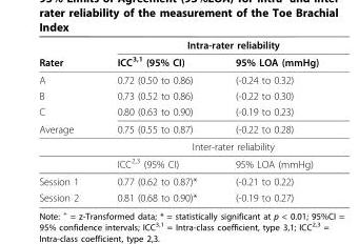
<table><thead><tr><td rowspan="2">Rater</td><td colspan="2">Intra-rater reliability</td></tr><tr><td>ICC<sup>3,1</sup> (95% CI)</td><td>95% LOA (mmHg)</td></tr></thead><tbody><tr><td>A</td><td>0.72 (0.50 to 0.86)</td><td>(-0.24 to 0.32)</td></tr><tr><td>B</td><td>0.73 (0.52 to 0.86)</td><td>(-0.22 to 0.30)</td></tr><tr><td>C</td><td>0.80 (0.63 to 0.90)</td><td>(-0.19 to 0.23)</td></tr><tr><td rowspan="3">Average</td><td>0.75 (0.55 to 0.87)</td><td>(-0.22 to 0.28)</td></tr><tr><td colspan="2">Inter-rater reliability</td></tr><tr><td>ICC<sup>2,3</sup> (95% CI)</td><td>95% LOA (mmHg)</td></tr><tr><td>Session 1</td><td>0.77 (0.62 to 0.87)*</td><td>(-0.21 to 0.22)</td></tr><tr><td>Session 2</td><td>0.81 (0.68 to 0.90)*</td><td>(-0.19 to 0.27)</td></tr></tbody></table>